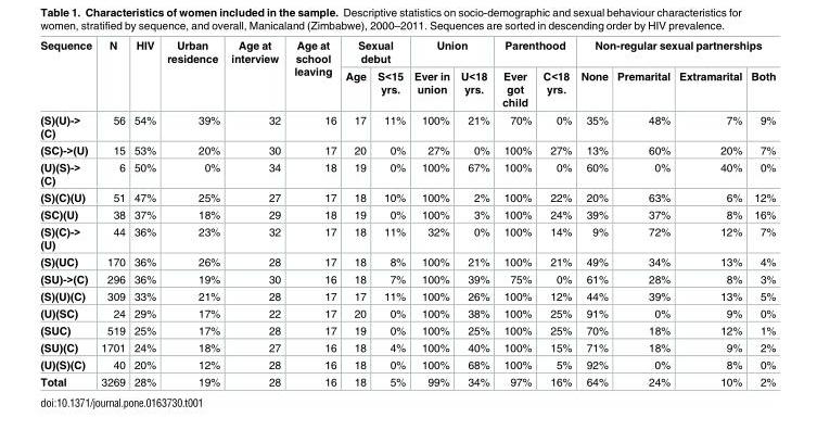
<table><thead><tr><td rowspan="2">Sequence</td><td rowspan="2">N</td><td rowspan="2">HIV</td><td rowspan="2">Urban residence</td><td rowspan="2">Age at interview</td><td rowspan="2">Age at school leaving</td><td colspan="2">Sexual debut</td><td colspan="2">Union</td><td colspan="2">Parenthood</td><td colspan="4">Non-regular sexual partnerships</td></tr><tr><td>Age</td><td>S&lt;15 yrs.</td><td>Ever in union</td><td>U&lt;18 yrs.</td><td>Ever got child</td><td>C&lt;18 yrs.</td><td>None</td><td>Premarital</td><td>Extramarital</td><td>Both</td></tr></thead><tbody><tr><td>(S)(U)-&gt; (C)</td><td>56</td><td>54%</td><td>39%</td><td>32</td><td>16</td><td>17</td><td>11%</td><td>100%</td><td>21%</td><td>70%</td><td>0%</td><td>35%</td><td>48%</td><td>7%</td><td>9%</td></tr><tr><td>(SC)-&gt;(U)</td><td>15</td><td>53%</td><td>20%</td><td>30</td><td>17</td><td>20</td><td>0%</td><td>27%</td><td>0%</td><td>100%</td><td>27%</td><td>13%</td><td>60%</td><td>20%</td><td>7%</td></tr><tr><td>(U)(S)-&gt; (C)</td><td>6</td><td>50%</td><td>0%</td><td>34</td><td>18</td><td>19</td><td>0%</td><td>100%</td><td>67%</td><td>100%</td><td>0%</td><td>60%</td><td>0%</td><td>40%</td><td>0%</td></tr><tr><td>(S)(C)(U)</td><td>51</td><td>47%</td><td>25%</td><td>27</td><td>17</td><td>18</td><td>10%</td><td>100%</td><td>2%</td><td>100%</td><td>22%</td><td>20%</td><td>63%</td><td>6%</td><td>12%</td></tr><tr><td>(SC)(U)</td><td>38</td><td>37%</td><td>18%</td><td>29</td><td>18</td><td>19</td><td>0%</td><td>100%</td><td>3%</td><td>100%</td><td>24%</td><td>39%</td><td>37%</td><td>8%</td><td>16%</td></tr><tr><td>(S)(C)-&gt; (U)</td><td>44</td><td>36%</td><td>23%</td><td>32</td><td>17</td><td>18</td><td>11%</td><td>32%</td><td>0%</td><td>100%</td><td>14%</td><td>9%</td><td>72%</td><td>12%</td><td>7%</td></tr><tr><td>(S)(UC)</td><td>170</td><td>36%</td><td>26%</td><td>28</td><td>17</td><td>18</td><td>8%</td><td>100%</td><td>21%</td><td>100%</td><td>21%</td><td>49%</td><td>34%</td><td>13%</td><td>4%</td></tr><tr><td>(SU)-&gt;(C)</td><td>296</td><td>36%</td><td>19%</td><td>30</td><td>16</td><td>18</td><td>7%</td><td>100%</td><td>39%</td><td>75%</td><td>0%</td><td>61%</td><td>28%</td><td>8%</td><td>3%</td></tr><tr><td>(S)(U)(C)</td><td>309</td><td>33%</td><td>21%</td><td>28</td><td>17</td><td>17</td><td>11%</td><td>100%</td><td>26%</td><td>100%</td><td>12%</td><td>44%</td><td>39%</td><td>13%</td><td>5%</td></tr><tr><td>(U)(SC)</td><td>24</td><td>29%</td><td>17%</td><td>22</td><td>17</td><td>20</td><td>0%</td><td>100%</td><td>38%</td><td>100%</td><td>25%</td><td>91%</td><td>0%</td><td>9%</td><td>0%</td></tr><tr><td>(SUC)</td><td>519</td><td>25%</td><td>17%</td><td>28</td><td>17</td><td>19</td><td>0%</td><td>100%</td><td>25%</td><td>100%</td><td>25%</td><td>70%</td><td>18%</td><td>12%</td><td>1%</td></tr><tr><td>(SU)(C)</td><td>1701</td><td>24%</td><td>18%</td><td>27</td><td>16</td><td>18</td><td>4%</td><td>100%</td><td>40%</td><td>100%</td><td>15%</td><td>71%</td><td>18%</td><td>9%</td><td>2%</td></tr><tr><td>(U)(S)(C)</td><td>40</td><td>20%</td><td>12%</td><td>28</td><td>16</td><td>18</td><td>0%</td><td>100%</td><td>68%</td><td>100%</td><td>5%</td><td>92%</td><td>0%</td><td>8%</td><td>0%</td></tr><tr><td>Total</td><td>3269</td><td>28%</td><td>19%</td><td>28</td><td>16</td><td>18</td><td>5%</td><td>99%</td><td>34%</td><td>97%</td><td>16%</td><td>64%</td><td>24%</td><td>10%</td><td>2%</td></tr></tbody></table>